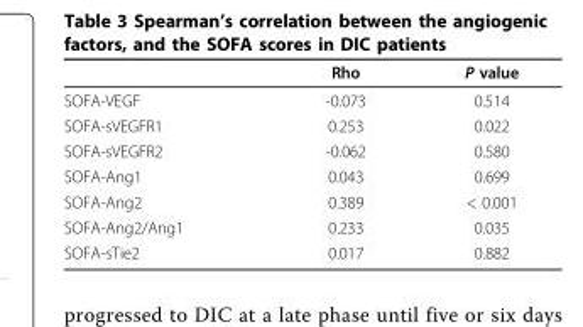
<table><thead><tr><td></td><td>Rho</td><td>P value</td></tr></thead><tbody><tr><td>SOFA-VEGF</td><td>-0.073</td><td>0.514</td></tr><tr><td>SOFA-sVEGFR1</td><td>0.253</td><td>0.022</td></tr><tr><td>SOFA-sVEGFR2</td><td>-0.062</td><td>0.580</td></tr><tr><td>SOFA-Ang1</td><td>0.043</td><td>0.699</td></tr><tr><td>SOFA-Ang2</td><td>0.389</td><td>&lt; 0.001</td></tr><tr><td>SOFA-Ang2/Ang1</td><td>0.233</td><td>0.035</td></tr><tr><td>SOFA-sTie2</td><td>0.017</td><td>0.882</td></tr></tbody></table>